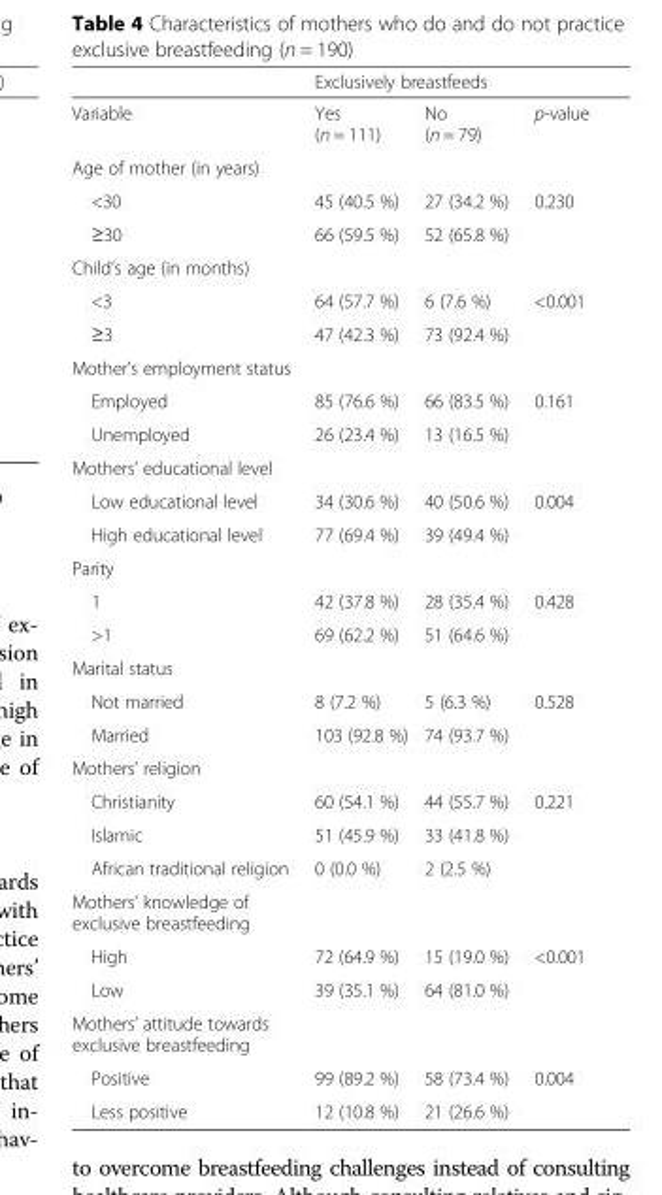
<table><thead><tr><td rowspan="2">Variable</td><td colspan="2">Exclusively breastfeeds</td><td rowspan="2">p-value</td></tr><tr><td>Yes (n = 111)</td><td>No (n = 79)</td></tr></thead><tbody><tr><td colspan="4">Age of mother (in years)</td></tr><tr><td>&lt;30</td><td>45 (40.5 %)</td><td>27 (34.2 %)</td><td>0.230</td></tr><tr><td>≥30</td><td>66 (59.5 %)</td><td>52 (65.8 %)</td><td></td></tr><tr><td colspan="4">Child’s age (in months)</td></tr><tr><td>&lt;3</td><td>64 (57.7 %)</td><td>6 (7.6 %)</td><td>&lt;0.001</td></tr><tr><td>≥3</td><td>47 (42.3 %)</td><td>73 (92.4 %)</td><td></td></tr><tr><td colspan="4">Mother’s employment status</td></tr><tr><td>Employed</td><td>85 (76.6 %)</td><td>66 (83.5 %)</td><td>0.161</td></tr><tr><td>Unemployed</td><td>26 (23.4 %)</td><td>13 (16.5 %)</td><td></td></tr><tr><td colspan="4">Mothers’ educational level</td></tr><tr><td>Low educational level</td><td>34 (30.6 %)</td><td>40 (50.6 %)</td><td>0.004</td></tr><tr><td>High educational level</td><td>77 (69.4 %)</td><td>39 (49.4 %)</td><td></td></tr><tr><td colspan="4">Parity</td></tr><tr><td>1</td><td>42 (37.8 %)</td><td>28 (35.4 %)</td><td>0.428</td></tr><tr><td>&gt;1</td><td>69 (62.2 %)</td><td>51 (64.6 %)</td><td></td></tr><tr><td colspan="4">Marital status</td></tr><tr><td>Not married</td><td>8 (7.2 %)</td><td>5 (6.3 %)</td><td>0.528</td></tr><tr><td>Married</td><td>103 (92.8 %)</td><td>74 (93.7 %)</td><td></td></tr><tr><td colspan="4">Mothers’ religion</td></tr><tr><td>Christianity</td><td>60 (54.1 %)</td><td>44 (55.7 %)</td><td>0.221</td></tr><tr><td>Islamic</td><td>51 (45.9 %)</td><td>33 (41.8 %)</td><td></td></tr><tr><td>African traditional religion</td><td>0 (0.0 %)</td><td>2 (2.5 %)</td><td></td></tr><tr><td colspan="4">Mothers’ knowledge of exclusive breastfeeding</td></tr><tr><td>High</td><td>72 (64.9 %)</td><td>15 (19.0 %)</td><td>&lt;0.001</td></tr><tr><td>Low</td><td>39 (35.1 %)</td><td>64 (81.0 %)</td><td></td></tr><tr><td colspan="4">Mothers’ attitude towards exclusive breastfeeding</td></tr><tr><td>Positive</td><td>99 (89.2 %)</td><td>58 (73.4 %)</td><td>0.004</td></tr><tr><td>Less positive</td><td>12 (10.8 %)</td><td>21 (26.6 %)</td><td></td></tr></tbody></table>